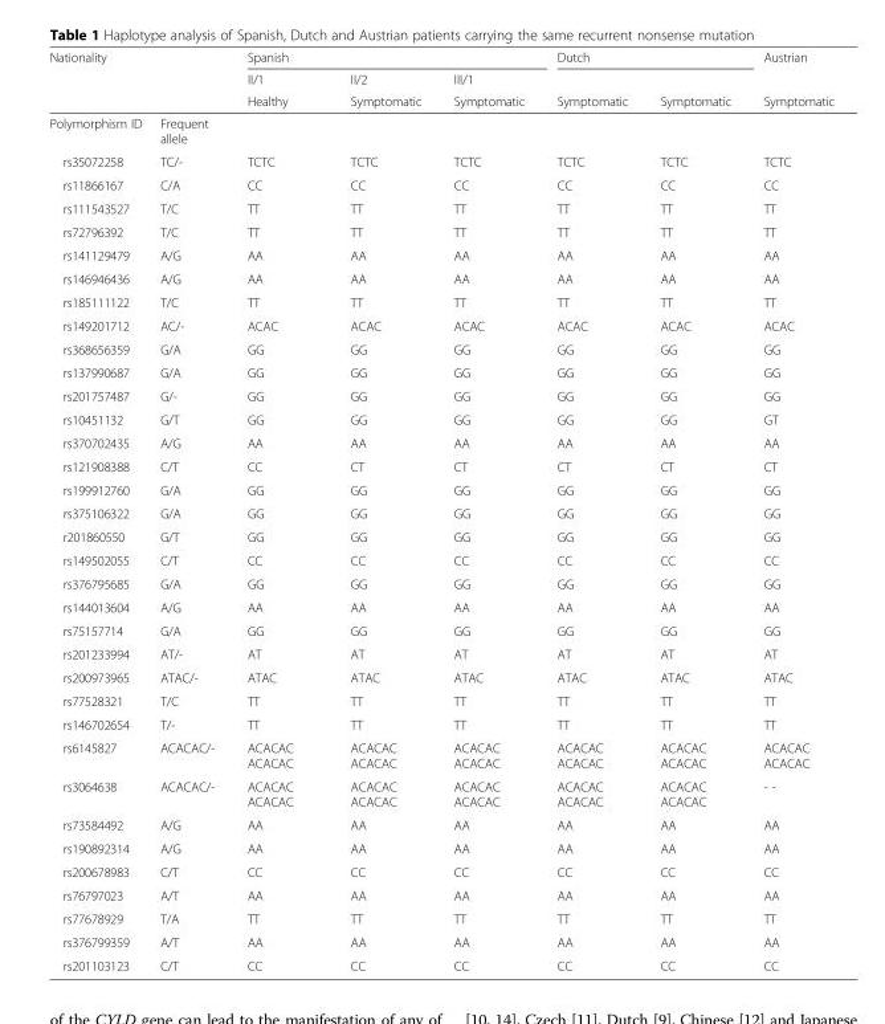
<table><thead><tr><td rowspan="3">Nationality</td><td rowspan="3"></td><td colspan="3">Spanish</td><td colspan="2">Dutch</td><td rowspan="3">Austrian Symptomatic</td></tr><tr><td rowspan="2">II/1 Healthy</td><td rowspan="2">II/2 Symptomatic</td><td rowspan="2">III/1 Symptomatic</td><td rowspan="2">Symptomatic</td><td rowspan="2">Symptomatic</td></tr><tr></tr></thead><tbody><tr><td>Polymorphism ID</td><td>Frequent allele</td><td></td><td></td><td></td><td></td><td></td><td></td></tr><tr><td>rs35072258</td><td>TC/-</td><td>TCTC</td><td>TCTC</td><td>TCTC</td><td>TCTC</td><td>TCTC</td><td>TCTC</td></tr><tr><td>rs11866167</td><td>C/A</td><td>CC</td><td>CC</td><td>CC</td><td>CC</td><td>CC</td><td>CC</td></tr><tr><td>rs111543527</td><td>T/C</td><td>TT</td><td>TT</td><td>TT</td><td>TT</td><td>TT</td><td>TT</td></tr><tr><td>rs72796392</td><td>T/C</td><td>TT</td><td>TT</td><td>TT</td><td>TT</td><td>TT</td><td>TT</td></tr><tr><td>rs141129479</td><td>A/G</td><td>AA</td><td>AA</td><td>AA</td><td>AA</td><td>AA</td><td>AA</td></tr><tr><td>rs146946436</td><td>A/G</td><td>AA</td><td>AA</td><td>AA</td><td>AA</td><td>AA</td><td>AA</td></tr><tr><td>rs185111122</td><td>T/C</td><td>TT</td><td>TT</td><td>TT</td><td>TT</td><td>TT</td><td>TT</td></tr><tr><td>rs149201712</td><td>AC/-</td><td>ACAC</td><td>ACAC</td><td>ACAC</td><td>ACAC</td><td>ACAC</td><td>ACAC</td></tr><tr><td>rs368656359</td><td>G/A</td><td>GG</td><td>GG</td><td>GG</td><td>GG</td><td>GG</td><td>GG</td></tr><tr><td>rs137990687</td><td>G/A</td><td>GG</td><td>GG</td><td>GG</td><td>GG</td><td>GG</td><td>GG</td></tr><tr><td>rs201757487</td><td>G/-</td><td>GG</td><td>GG</td><td>GG</td><td>GG</td><td>GG</td><td>GG</td></tr><tr><td>rs10451132</td><td>G/T</td><td>GG</td><td>GG</td><td>GG</td><td>GG</td><td>GG</td><td>GT</td></tr><tr><td>rs370702435</td><td>A/G</td><td>AA</td><td>AA</td><td>AA</td><td>AA</td><td>AA</td><td>AA</td></tr><tr><td>rs121908388</td><td>C/T</td><td>CC</td><td>CT</td><td>CT</td><td>CT</td><td>CT</td><td>CT</td></tr><tr><td>rs199912760</td><td>G/A</td><td>GG</td><td>GG</td><td>GG</td><td>GG</td><td>GG</td><td>GG</td></tr><tr><td>rs375106322</td><td>G/A</td><td>GG</td><td>GG</td><td>GG</td><td>GG</td><td>GG</td><td>GG</td></tr><tr><td>r201860550</td><td>G/T</td><td>GG</td><td>GG</td><td>GG</td><td>GG</td><td>GG</td><td>GG</td></tr><tr><td>rs149502055</td><td>C/T</td><td>CC</td><td>CC</td><td>CC</td><td>CC</td><td>CC</td><td>CC</td></tr><tr><td>rs376795685</td><td>G/A</td><td>GG</td><td>GG</td><td>GG</td><td>GG</td><td>GG</td><td>GG</td></tr><tr><td>rs144013604</td><td>A/G</td><td>AA</td><td>AA</td><td>AA</td><td>AA</td><td>AA</td><td>AA</td></tr><tr><td>rs75157714</td><td>G/A</td><td>GG</td><td>GG</td><td>GG</td><td>GG</td><td>GG</td><td>GG</td></tr><tr><td>rs201233994</td><td>AT/-</td><td>AT</td><td>AT</td><td>AT</td><td>AT</td><td>AT</td><td>AT</td></tr><tr><td>rs200973965</td><td>ATAC/-</td><td>ATAC</td><td>ATAC</td><td>ATAC</td><td>ATAC</td><td>ATAC</td><td>ATAC</td></tr><tr><td>rs77528321</td><td>T/C</td><td>TT</td><td>TT</td><td>TT</td><td>TT</td><td>TT</td><td>TT</td></tr><tr><td>rs146702654</td><td>T/-</td><td>TT</td><td>TT</td><td>TT</td><td>TT</td><td>TT</td><td>TT</td></tr><tr><td>rs6145827</td><td>ACACAC/-</td><td>ACACAC ACACAC</td><td>ACACAC ACACAC</td><td>ACACAC ACACAC</td><td>ACACAC ACACAC</td><td>ACACAC ACACAC</td><td>ACACAC ACACAC</td></tr><tr><td>rs3064638</td><td>ACACAC/-</td><td>ACACAC ACACAC</td><td>ACACAC ACACAC</td><td>ACACAC ACACAC</td><td>ACACAC ACACAC</td><td>ACACAC ACACAC</td><td>- -</td></tr><tr><td>rs73584492</td><td>A/G</td><td>AA</td><td>AA</td><td>AA</td><td>AA</td><td>AA</td><td>AA</td></tr><tr><td>rs190892314</td><td>A/G</td><td>AA</td><td>AA</td><td>AA</td><td>AA</td><td>AA</td><td>AA</td></tr><tr><td>rs200678983</td><td>C/T</td><td>CC</td><td>CC</td><td>CC</td><td>CC</td><td>CC</td><td>CC</td></tr><tr><td>rs76797023</td><td>A/T</td><td>AA</td><td>AA</td><td>AA</td><td>AA</td><td>AA</td><td>AA</td></tr><tr><td>rs77678929</td><td>T/A</td><td>TT</td><td>TT</td><td>TT</td><td>TT</td><td>TT</td><td>TT</td></tr><tr><td>rs376799359</td><td>A/T</td><td>AA</td><td>AA</td><td>AA</td><td>AA</td><td>AA</td><td>AA</td></tr><tr><td>rs201103123</td><td>C/T</td><td>CC</td><td>CC</td><td>CC</td><td>CC</td><td>CC</td><td>CC</td></tr></tbody></table>